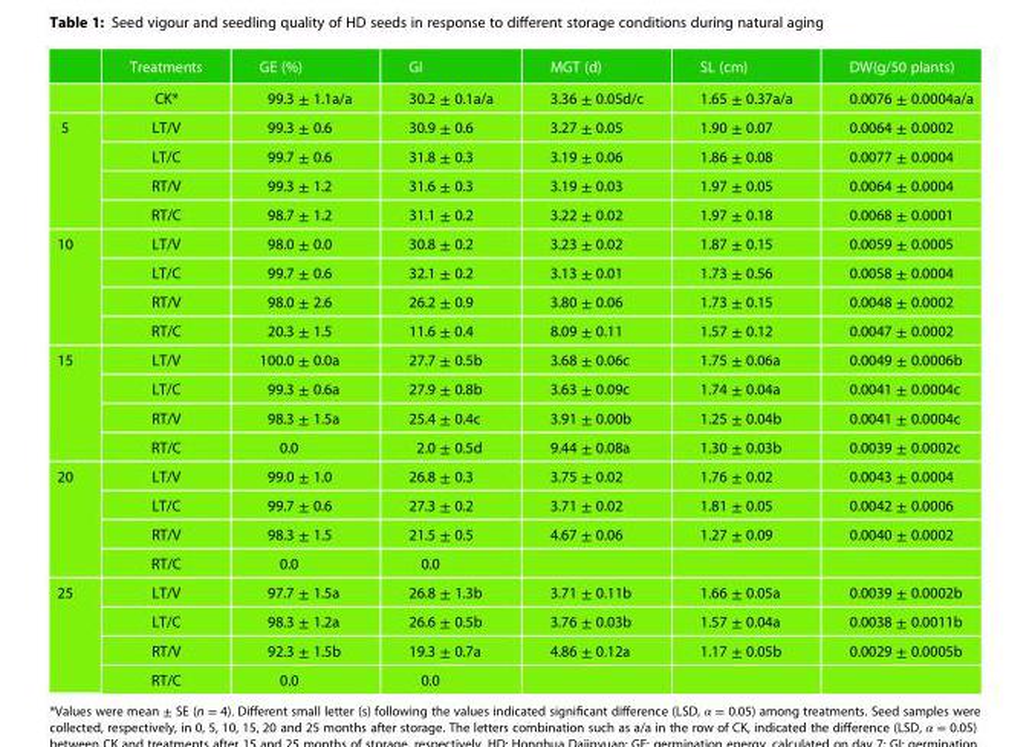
<table><thead><tr><td></td><td>Treatments</td><td>GE (%)</td><td>GI</td><td>MGT (d)</td><td>SL (cm)</td><td>DW(g/50 plants)</td></tr></thead><tbody><tr><td></td><td>CK*</td><td>99.3 ± 1.1a/a</td><td>30.2 ± 0.1a/a</td><td>3.36 ± 0.05d/c</td><td>1.65 ± 0.37a/a</td><td>0.0076 ± 0.0004a/a</td></tr><tr><td rowspan="4">5</td><td>LT/V</td><td>99.3 ± 0.6</td><td>30.9 ± 0.6</td><td>3.27 ± 0.05</td><td>1.90 ± 0.07</td><td>0.0064 ± 0.0002</td></tr><tr><td>LT/C</td><td>99.7 ± 0.6</td><td>31.8 ± 0.3</td><td>3.19 ± 0.06</td><td>1.86 ± 0.08</td><td>0.0077 ± 0.0004</td></tr><tr><td>RT/V</td><td>99.3 ± 1.2</td><td>31.6 ± 0.3</td><td>3.19 ± 0.03</td><td>1.97 ± 0.05</td><td>0.0064 ± 0.0004</td></tr><tr><td>RT/C</td><td>98.7 ± 1.2</td><td>31.1 ± 0.2</td><td>3.22 ± 0.02</td><td>1.97 ± 0.18</td><td>0.0068 ± 0.0001</td></tr><tr><td rowspan="4">10</td><td>LT/V</td><td>98.0 ± 0.0</td><td>30.8 ± 0.2</td><td>3.23 ± 0.02</td><td>1.87 ± 0.15</td><td>0.0059 ± 0.0005</td></tr><tr><td>LT/C</td><td>99.7 ± 0.6</td><td>32.1 ± 0.2</td><td>3.13 ± 0.01</td><td>1.73 ± 0.56</td><td>0.0058 ± 0.0004</td></tr><tr><td>RT/V</td><td>98.0 ± 2.6</td><td>26.2 ± 0.9</td><td>3.80 ± 0.06</td><td>1.73 ± 0.15</td><td>0.0048 ± 0.0002</td></tr><tr><td>RT/C</td><td>20.3 ± 1.5</td><td>11.6 ± 0.4</td><td>8.09 ± 0.11</td><td>1.57 ± 0.12</td><td>0.0047 ± 0.0002</td></tr><tr><td rowspan="4">15</td><td>LT/V</td><td>100.0 ± 0.0a</td><td>27.7 ± 0.5b</td><td>3.68 ± 0.06c</td><td>1.75 ± 0.06a</td><td>0.0049 ± 0.0006b</td></tr><tr><td>LT/C</td><td>99.3 ± 0.6a</td><td>27.9 ± 0.8b</td><td>3.63 ± 0.09c</td><td>1.74 ± 0.04a</td><td>0.0041 ± 0.0004c</td></tr><tr><td>RT/V</td><td>98.3 ± 1.5a</td><td>25.4 ± 0.4c</td><td>3.91 ± 0.00b</td><td>1.25 ± 0.04b</td><td>0.0041 ± 0.0004c</td></tr><tr><td>RT/C</td><td>0.0</td><td>2.0 ± 0.5d</td><td>9.44 ± 0.08a</td><td>1.30 ± 0.03b</td><td>0.0039 ± 0.0002c</td></tr><tr><td rowspan="4">20</td><td>LT/V</td><td>99.0 ± 1.0</td><td>26.8 ± 0.3</td><td>3.75 ± 0.02</td><td>1.76 ± 0.02</td><td>0.0043 ± 0.0004</td></tr><tr><td>LT/C</td><td>99.7 ± 0.6</td><td>27.3 ± 0.2</td><td>3.71 ± 0.02</td><td>1.81 ± 0.05</td><td>0.0042 ± 0.0006</td></tr><tr><td>RT/V</td><td>98.3 ± 1.5</td><td>21.5 ± 0.5</td><td>4.67 ± 0.06</td><td>1.27 ± 0.09</td><td>0.0040 ± 0.0002</td></tr><tr><td>RT/C</td><td>0.0</td><td>0.0</td><td></td><td></td><td></td></tr><tr><td rowspan="4">25</td><td>LT/V</td><td>97.7 ± 1.5a</td><td>26.8 ± 1.3b</td><td>3.71 ± 0.11b</td><td>1.66 ± 0.05a</td><td>0.0039 ± 0.0002b</td></tr><tr><td>LT/C</td><td>98.3 ± 1.2a</td><td>26.6 ± 0.5b</td><td>3.76 ± 0.03b</td><td>1.57 ± 0.04a</td><td>0.0038 ± 0.0011b</td></tr><tr><td>RT/V</td><td>92.3 ± 1.5b</td><td>19.3 ± 0.7a</td><td>4.86 ± 0.12a</td><td>1.17 ± 0.05b</td><td>0.0029 ± 0.0005b</td></tr><tr><td>RT/C</td><td>0.0</td><td>0.0</td><td></td><td></td><td></td></tr></tbody></table>